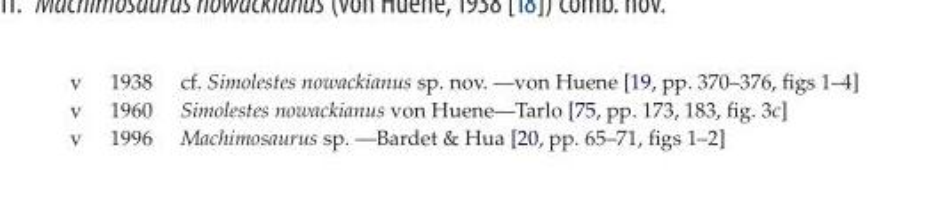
<table><tbody><tr><td>v</td><td>1938</td><td>cf. Simolestes nowackianus sp. nov. —von Huene [19, pp. 370–376, figs 1–4]</td></tr><tr><td>v</td><td>1960</td><td>Simolestes nowackianus von Huene—Tarlo [75, pp. 173, 183, fig. 3c]</td></tr><tr><td>v</td><td>1996</td><td>Machimosaurus sp. —Bardet &amp; Hua [20, pp. 65–71, figs 1–2]</td></tr></tbody></table>